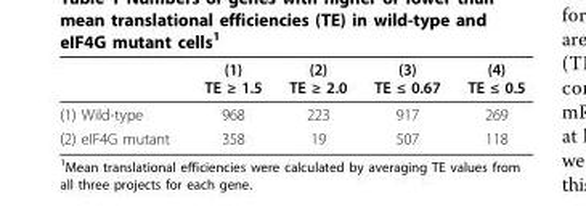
<table><thead><tr><td></td><td>(1) TE ≥ 1.5</td><td>(2) TE ≥ 2.0</td><td>(3) TE ≤ 0.67</td><td>(4) TE ≤ 0.5</td></tr></thead><tbody><tr><td>(1) Wild-type</td><td>968</td><td>223</td><td>917</td><td>269</td></tr><tr><td>(2) eIF4G mutant</td><td>358</td><td>19</td><td>507</td><td>118</td></tr></tbody></table>